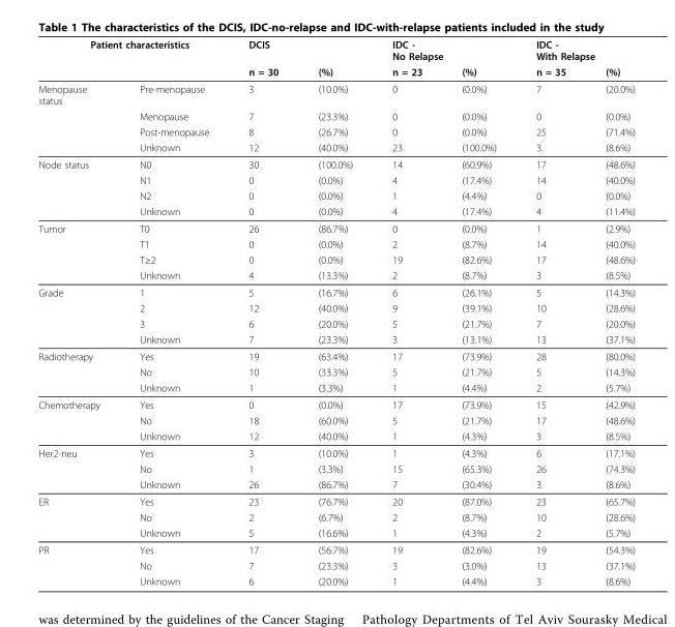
<table><thead><tr><td colspan="2">Patient characteristics</td><td colspan="2">DCIS</td><td colspan="2">IDC - No Relapse</td><td colspan="2">IDC - With Relapse</td></tr><tr><td></td><td></td><td>n = 30</td><td>(%)</td><td>n = 23</td><td>(%)</td><td>n = 35</td><td>(%)</td></tr></thead><tbody><tr><td rowspan="4">Menopause status</td><td>Pre-menopause</td><td>3</td><td>(10.0%)</td><td>0</td><td>(0.0%)</td><td>7</td><td>(20.0%)</td></tr><tr><td>Menopause</td><td>7</td><td>(23.3%)</td><td>0</td><td>(0.0%)</td><td>0</td><td>(0.0%)</td></tr><tr><td>Post-menopause</td><td>8</td><td>(26.7%)</td><td>0</td><td>(0.0%)</td><td>25</td><td>(71.4%)</td></tr><tr><td>Unknown</td><td>12</td><td>(40.0%)</td><td>23</td><td>(100.0%)</td><td>3</td><td>(8.6%)</td></tr><tr><td rowspan="4">Node status</td><td>N0</td><td>30</td><td>(100.0%)</td><td>14</td><td>(60.9%)</td><td>17</td><td>(48.6%)</td></tr><tr><td>N1</td><td>0</td><td>(0.0%)</td><td>4</td><td>(17.4%)</td><td>14</td><td>(40.0%)</td></tr><tr><td>N2</td><td>0</td><td>(0.0%)</td><td>1</td><td>(4.4%)</td><td>0</td><td>(0.0%)</td></tr><tr><td>Unknown</td><td>0</td><td>(0.0%)</td><td>4</td><td>(17.4%)</td><td>4</td><td>(11.4%)</td></tr><tr><td rowspan="4">Tumor</td><td>T0</td><td>26</td><td>(86.7%)</td><td>0</td><td>(0.0%)</td><td>1</td><td>(2.9%)</td></tr><tr><td>T1</td><td>0</td><td>(0.0%)</td><td>2</td><td>(8.7%)</td><td>14</td><td>(40.0%)</td></tr><tr><td>T≥2</td><td>0</td><td>(0.0%)</td><td>19</td><td>(82.6%)</td><td>17</td><td>(48.6%)</td></tr><tr><td>Unknown</td><td>4</td><td>(13.3%)</td><td>2</td><td>(8.7%)</td><td>3</td><td>(8.5%)</td></tr><tr><td rowspan="4">Grade</td><td>1</td><td>5</td><td>(16.7%)</td><td>6</td><td>(26.1%)</td><td>5</td><td>(14.3%)</td></tr><tr><td>2</td><td>12</td><td>(40.0%)</td><td>9</td><td>(39.1%)</td><td>10</td><td>(28.6%)</td></tr><tr><td>3</td><td>6</td><td>(20.0%)</td><td>5</td><td>(21.7%)</td><td>7</td><td>(20.0%)</td></tr><tr><td>Unknown</td><td>7</td><td>(23.3%)</td><td>3</td><td>(13.1%)</td><td>13</td><td>(37.1%)</td></tr><tr><td rowspan="3">Radiotherapy</td><td>Yes</td><td>19</td><td>(63.4%)</td><td>17</td><td>(73.9%)</td><td>28</td><td>(80.0%)</td></tr><tr><td>No</td><td>10</td><td>(33.3%)</td><td>5</td><td>(21.7%)</td><td>5</td><td>(14.3%)</td></tr><tr><td>Unknown</td><td>1</td><td>(3.3%)</td><td>1</td><td>(4.4%)</td><td>2</td><td>(5.7%)</td></tr><tr><td rowspan="3">Chemotherapy</td><td>Yes</td><td>0</td><td>(0.0%)</td><td>17</td><td>(73.9%)</td><td>15</td><td>(42.9%)</td></tr><tr><td>No</td><td>18</td><td>(60.0%)</td><td>5</td><td>(21.7%)</td><td>17</td><td>(48.6%)</td></tr><tr><td>Unknown</td><td>12</td><td>(40.0%)</td><td>1</td><td>(4.3%)</td><td>3</td><td>(8.5%)</td></tr><tr><td rowspan="3">Her2-neu</td><td>Yes</td><td>3</td><td>(10.0%)</td><td>1</td><td>(4.3%)</td><td>6</td><td>(17.1%)</td></tr><tr><td>No</td><td>1</td><td>(3.3%)</td><td>15</td><td>(65.3%)</td><td>26</td><td>(74.3%)</td></tr><tr><td>Unknown</td><td>26</td><td>(86.7%)</td><td>7</td><td>(30.4%)</td><td>3</td><td>(8.6%)</td></tr><tr><td rowspan="3">ER</td><td>Yes</td><td>23</td><td>(76.7%)</td><td>20</td><td>(87.0%)</td><td>23</td><td>(65.7%)</td></tr><tr><td>No</td><td>2</td><td>(6.7%)</td><td>2</td><td>(8.7%)</td><td>10</td><td>(28.6%)</td></tr><tr><td>Unknown</td><td>5</td><td>(16.6%)</td><td>1</td><td>(4.3%)</td><td>2</td><td>(5.7%)</td></tr><tr><td rowspan="3">PR</td><td>Yes</td><td>17</td><td>(56.7%)</td><td>19</td><td>(82.6%)</td><td>19</td><td>(54.3%)</td></tr><tr><td>No</td><td>7</td><td>(23.3%)</td><td>3</td><td>(3.0%)</td><td>13</td><td>(37.1%)</td></tr><tr><td>Unknown</td><td>6</td><td>(20.0%)</td><td>1</td><td>(4.4%)</td><td>3</td><td>(8.6%)</td></tr></tbody></table>